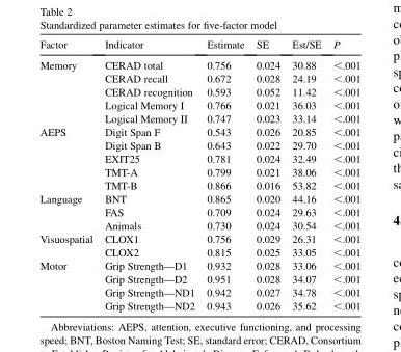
<table><thead><tr><td>Factor</td><td>Indicator</td><td>Estimate</td><td>SE</td><td>Est/SE</td><td>P</td></tr></thead><tbody><tr><td rowspan="5">Memory</td><td>CERAD total</td><td>0.756</td><td>0.024</td><td>30.88</td><td>&lt;.001</td></tr><tr><td>CERAD recall</td><td>0.672</td><td>0.028</td><td>24.19</td><td>&lt;.001</td></tr><tr><td>CERAD recognition</td><td>0.593</td><td>0.052</td><td>11.42</td><td>&lt;.001</td></tr><tr><td>Logical Memory I</td><td>0.766</td><td>0.021</td><td>36.03</td><td>&lt;.001</td></tr><tr><td>Logical Memory II</td><td>0.747</td><td>0.023</td><td>33.14</td><td>&lt;.001</td></tr><tr><td rowspan="5">AEPS</td><td>Digit Span F</td><td>0.543</td><td>0.026</td><td>20.85</td><td>&lt;.001</td></tr><tr><td>Digit Span B</td><td>0.643</td><td>0.022</td><td>29.70</td><td>&lt;.001</td></tr><tr><td>EXIT25</td><td>0.781</td><td>0.024</td><td>32.49</td><td>&lt;.001</td></tr><tr><td>TMT-A</td><td>0.799</td><td>0.021</td><td>38.06</td><td>&lt;.001</td></tr><tr><td>TMT-B</td><td>0.866</td><td>0.016</td><td>53.82</td><td>&lt;.001</td></tr><tr><td rowspan="3">Language</td><td>BNT</td><td>0.865</td><td>0.020</td><td>44.16</td><td>&lt;.001</td></tr><tr><td>FAS</td><td>0.709</td><td>0.024</td><td>29.63</td><td>&lt;.001</td></tr><tr><td>Animals</td><td>0.730</td><td>0.024</td><td>30.54</td><td>&lt;.001</td></tr><tr><td rowspan="2">Visuospatial</td><td>CLOX1</td><td>0.756</td><td>0.029</td><td>26.31</td><td>&lt;.001</td></tr><tr><td>CLOX2</td><td>0.815</td><td>0.025</td><td>33.05</td><td>&lt;.001</td></tr><tr><td rowspan="4">Motor</td><td>Grip Strength—D1</td><td>0.932</td><td>0.028</td><td>33.06</td><td>&lt;.001</td></tr><tr><td>Grip Strength—D2</td><td>0.951</td><td>0.028</td><td>34.07</td><td>&lt;.001</td></tr><tr><td>Grip Strength—ND1</td><td>0.942</td><td>0.027</td><td>34.78</td><td>&lt;.001</td></tr><tr><td>Grip Strength—ND2</td><td>0.943</td><td>0.026</td><td>35.62</td><td>&lt;.001</td></tr></tbody></table>